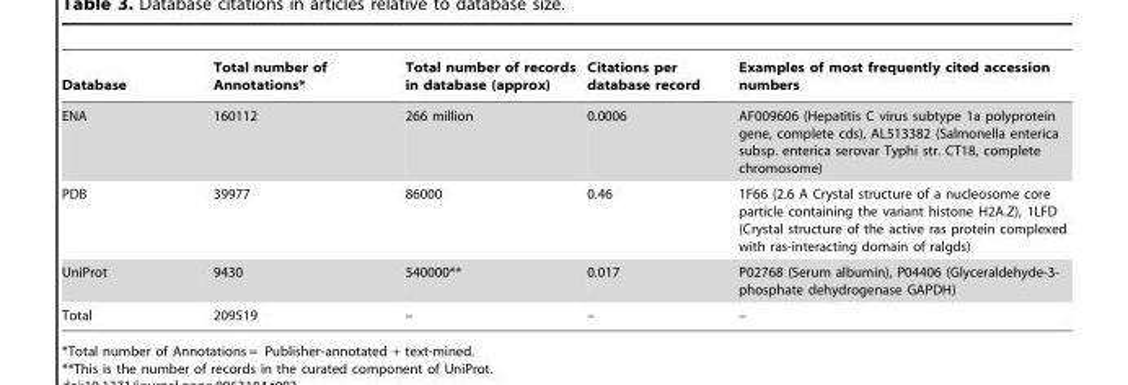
<table><thead><tr><td>Database</td><td>Total number of Annotations*</td><td>Total number of records in database (approx)</td><td>Citations per database record</td><td>Examples of most frequently cited accession numbers</td></tr></thead><tbody><tr><td>ENA</td><td>160112</td><td>266 million</td><td>0.0006</td><td>AF009606 (Hepatitis C virus subtype 1a polyprotein gene, complete cds), AL513382 (Salmonella enterica subsp. enterica serovar Typhi str. CT18, complete chromosome)</td></tr><tr><td>PDB</td><td>39977</td><td>86000</td><td>0.46</td><td>1F66 (2.6 A Crystal structure of a nucleosome core particle containing the variant histone H2A.Z), 1LFD (Crystal structure of the active ras protein complexed with ras-interacting domain of ralgds)</td></tr><tr><td>UniProt</td><td>9430</td><td>540000**</td><td>0.017</td><td>P02768 (Serum albumin), P04406 (Glyceraldehyde-3- phosphate dehydrogenase GAPDH)</td></tr><tr><td>Total</td><td>209519</td><td>–</td><td>–</td><td>–</td></tr></tbody></table>